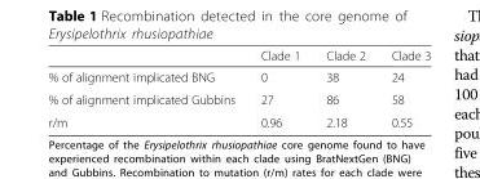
<table><thead><tr><td></td><td>Clade 1</td><td>Clade 2</td><td>Clade 3</td></tr></thead><tbody><tr><td>% of alignment implicated BNG</td><td>0</td><td>38</td><td>24</td></tr><tr><td>% of alignment implicated Gubbins</td><td>27</td><td>86</td><td>58</td></tr><tr><td>r/m</td><td>0.96</td><td>2.18</td><td>0.55</td></tr></tbody></table>